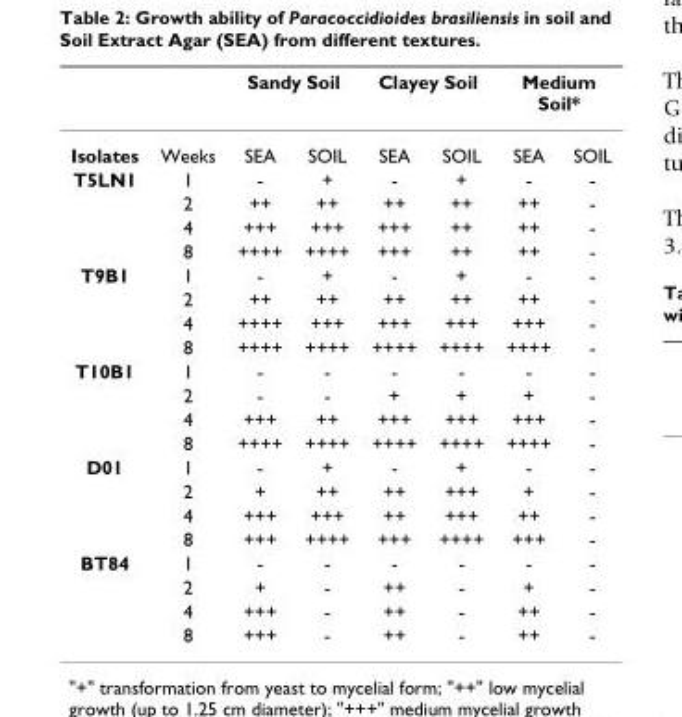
<table><thead><tr><td rowspan="2">Isolates</td><td rowspan="2">Weeks</td><td colspan="2">Sandy Soil</td><td colspan="2">Clayey Soil</td><td colspan="2">Medium Soil*</td></tr><tr><td>SEA</td><td>SOIL</td><td>SEA</td><td>SOIL</td><td>SEA</td><td>SOIL</td></tr></thead><tbody><tr><td rowspan="4">T5LN1</td><td>1</td><td>-</td><td>+</td><td>-</td><td>+</td><td>-</td><td>-</td></tr><tr><td>2</td><td>++</td><td>++</td><td>++</td><td>++</td><td>++</td><td>-</td></tr><tr><td>4</td><td>+++</td><td>+++</td><td>+++</td><td>++</td><td>++</td><td>-</td></tr><tr><td>8</td><td>++++</td><td>++++</td><td>+++</td><td>++</td><td>++</td><td>-</td></tr><tr><td rowspan="4">T9B1</td><td>1</td><td>-</td><td>+</td><td>-</td><td>+</td><td>-</td><td>-</td></tr><tr><td>2</td><td>++</td><td>++</td><td>++</td><td>++</td><td>++</td><td>-</td></tr><tr><td>4</td><td>++++</td><td>+++</td><td>+++</td><td>+++</td><td>+++</td><td>-</td></tr><tr><td>8</td><td>++++</td><td>++++</td><td>++++</td><td>++++</td><td>++++</td><td>-</td></tr><tr><td rowspan="4">T10B1</td><td>1</td><td>-</td><td>-</td><td>-</td><td>-</td><td>-</td><td>-</td></tr><tr><td>2</td><td>-</td><td>-</td><td>+</td><td>+</td><td>+</td><td>-</td></tr><tr><td>4</td><td>+++</td><td>++</td><td>+++</td><td>+++</td><td>+++</td><td>-</td></tr><tr><td>8</td><td>++++</td><td>++++</td><td>++++</td><td>++++</td><td>++++</td><td>-</td></tr><tr><td rowspan="4">D01</td><td>1</td><td>-</td><td>+</td><td>-</td><td>+</td><td>-</td><td>-</td></tr><tr><td>2</td><td>+</td><td>++</td><td>++</td><td>+++</td><td>+</td><td>-</td></tr><tr><td>4</td><td>+++</td><td>+++</td><td>++</td><td>+++</td><td>++</td><td>-</td></tr><tr><td>8</td><td>+++</td><td>++++</td><td>+++</td><td>++++</td><td>+++</td><td>-</td></tr><tr><td rowspan="4">BT84</td><td>1</td><td>-</td><td>-</td><td>-</td><td>-</td><td>-</td><td>-</td></tr><tr><td>2</td><td>+</td><td>-</td><td>++</td><td>-</td><td>+</td><td>-</td></tr><tr><td>4</td><td>+++</td><td>-</td><td>++</td><td>-</td><td>++</td><td>-</td></tr><tr><td>8</td><td>+++</td><td>-</td><td>++</td><td>-</td><td>++</td><td>-</td></tr></tbody></table>